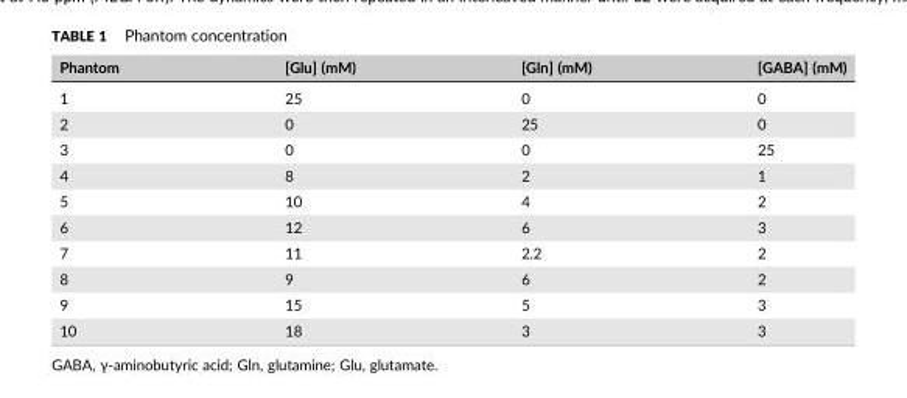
<table><thead><tr><td>Phantom</td><td>[Glu] (mM)</td><td>[Gln] (mM)</td><td>[GABA] (mM)</td></tr></thead><tbody><tr><td>1</td><td>25</td><td>0</td><td>0</td></tr><tr><td>2</td><td>0</td><td>25</td><td>0</td></tr><tr><td>3</td><td>0</td><td>0</td><td>25</td></tr><tr><td>4</td><td>8</td><td>2</td><td>1</td></tr><tr><td>5</td><td>10</td><td>4</td><td>2</td></tr><tr><td>6</td><td>12</td><td>6</td><td>3</td></tr><tr><td>7</td><td>11</td><td>2.2</td><td>2</td></tr><tr><td>8</td><td>9</td><td>6</td><td>2</td></tr><tr><td>9</td><td>15</td><td>5</td><td>3</td></tr><tr><td>10</td><td>18</td><td>3</td><td>3</td></tr></tbody></table>